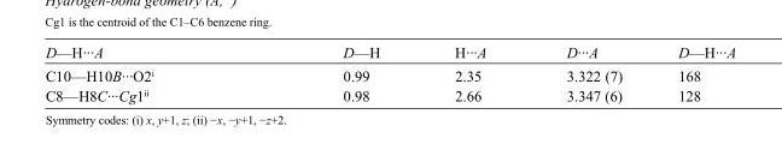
<table><tbody><tr><td>D—H···A</td><td>D—H</td><td>H···A</td><td>D···A</td><td>D—H···A</td></tr><tr><td>C10—H10B···O2<sup>i</sup></td><td>0.99</td><td>2.35</td><td>3.322 (7)</td><td>168</td></tr><tr><td>C8—H8C···Cg1<sup>ii</sup></td><td>0.98</td><td>2.66</td><td>3.347 (6)</td><td>128</td></tr></tbody></table>